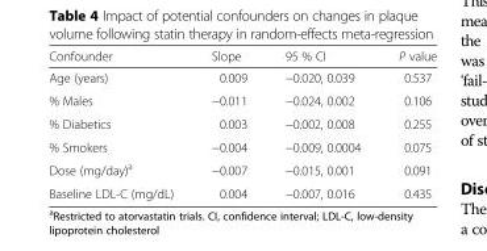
<table><thead><tr><td>Confounder</td><td>Slope</td><td>95 % CI</td><td>P value</td></tr></thead><tbody><tr><td>Age (years)</td><td>0.009</td><td>−0.020, 0.039</td><td>0.537</td></tr><tr><td>% Males</td><td>−0.011</td><td>−0.024, 0.002</td><td>0.106</td></tr><tr><td>% Diabetics</td><td>0.003</td><td>−0.002, 0.008</td><td>0.255</td></tr><tr><td>% Smokers</td><td>−0.004</td><td>−0.009, 0.0004</td><td>0.075</td></tr><tr><td>Dose (mg/day)<sup>a</sup></td><td>−0.007</td><td>−0.015, 0.001</td><td>0.091</td></tr><tr><td>Baseline LDL-C (mg/dL)</td><td>0.004</td><td>−0.007, 0.016</td><td>0.435</td></tr></tbody></table>